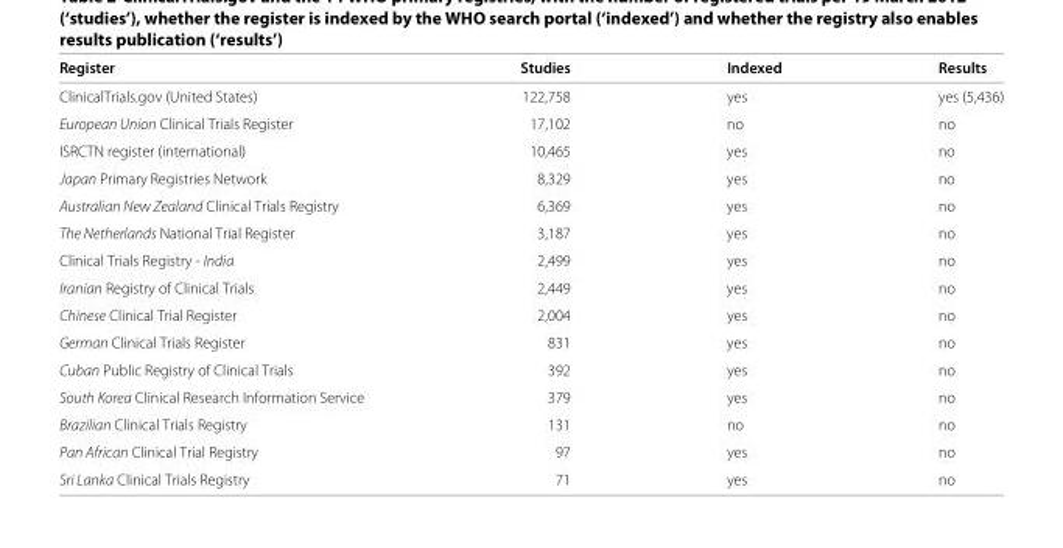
<table><thead><tr><td>Register</td><td>Studies</td><td>Indexed</td><td>Results</td></tr></thead><tbody><tr><td>ClinicalTrials.gov (United States)</td><td>122,758</td><td>yes</td><td>yes (5,436)</td></tr><tr><td>European Union Clinical Trials Register</td><td>17,102</td><td>no</td><td>no</td></tr><tr><td>ISRCTN register (international)</td><td>10,465</td><td>yes</td><td>no</td></tr><tr><td>Japan Primary Registries Network</td><td>8,329</td><td>yes</td><td>no</td></tr><tr><td>Australian New Zealand Clinical Trials Registry</td><td>6,369</td><td>yes</td><td>no</td></tr><tr><td>The Netherlands National Trial Register</td><td>3,187</td><td>yes</td><td>no</td></tr><tr><td>Clinical Trials Registry - India</td><td>2,499</td><td>yes</td><td>no</td></tr><tr><td>Iranian Registry of Clinical Trials</td><td>2,449</td><td>yes</td><td>no</td></tr><tr><td>Chinese Clinical Trial Register</td><td>2,004</td><td>yes</td><td>no</td></tr><tr><td>German Clinical Trials Register</td><td>831</td><td>yes</td><td>no</td></tr><tr><td>Cuban Public Registry of Clinical Trials</td><td>392</td><td>yes</td><td>no</td></tr><tr><td>South Korea Clinical Research Information Service</td><td>379</td><td>yes</td><td>no</td></tr><tr><td>Brazilian Clinical Trials Registry</td><td>131</td><td>no</td><td>no</td></tr><tr><td>Pan African Clinical Trial Registry</td><td>97</td><td>yes</td><td>no</td></tr><tr><td>Sri Lanka Clinical Trials Registry</td><td>71</td><td>yes</td><td>no</td></tr></tbody></table>